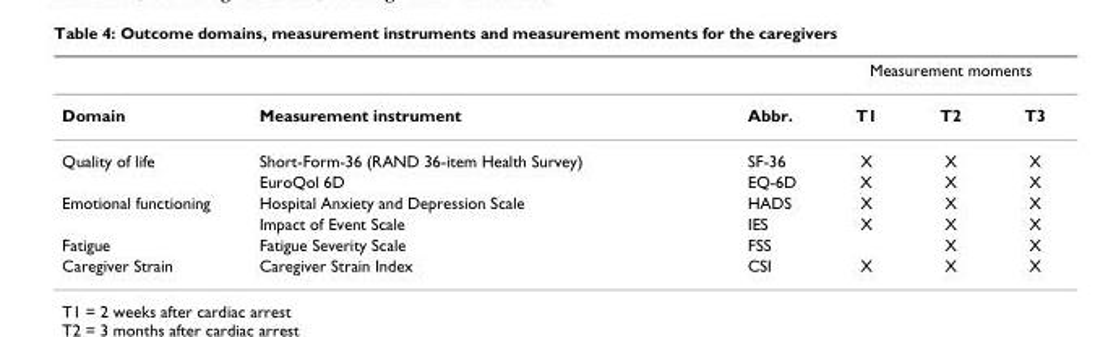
<table><thead><tr><td rowspan="2">Domain</td><td rowspan="2">Measurement instrument</td><td rowspan="2">Abbr.</td><td colspan="3">Measurement moments</td></tr><tr><td>T1</td><td>T2</td><td>T3</td></tr></thead><tbody><tr><td rowspan="2">Quality of life</td><td>Short-Form-36 (RAND 36-item Health Survey)</td><td>SF-36</td><td>X</td><td>X</td><td>X</td></tr><tr><td>EuroQol 6D</td><td>EQ-6D</td><td>X</td><td>X</td><td>X</td></tr><tr><td rowspan="2">Emotional functioning</td><td>Hospital Anxiety and Depression Scale</td><td>HADS</td><td>X</td><td>X</td><td>X</td></tr><tr><td>Impact of Event Scale</td><td>IES</td><td>X</td><td>X</td><td>X</td></tr><tr><td>Fatigue</td><td>Fatigue Severity Scale</td><td>FSS</td><td></td><td>X</td><td>X</td></tr><tr><td>Caregiver Strain</td><td>Caregiver Strain Index</td><td>CSI</td><td>X</td><td>X</td><td>X</td></tr></tbody></table>